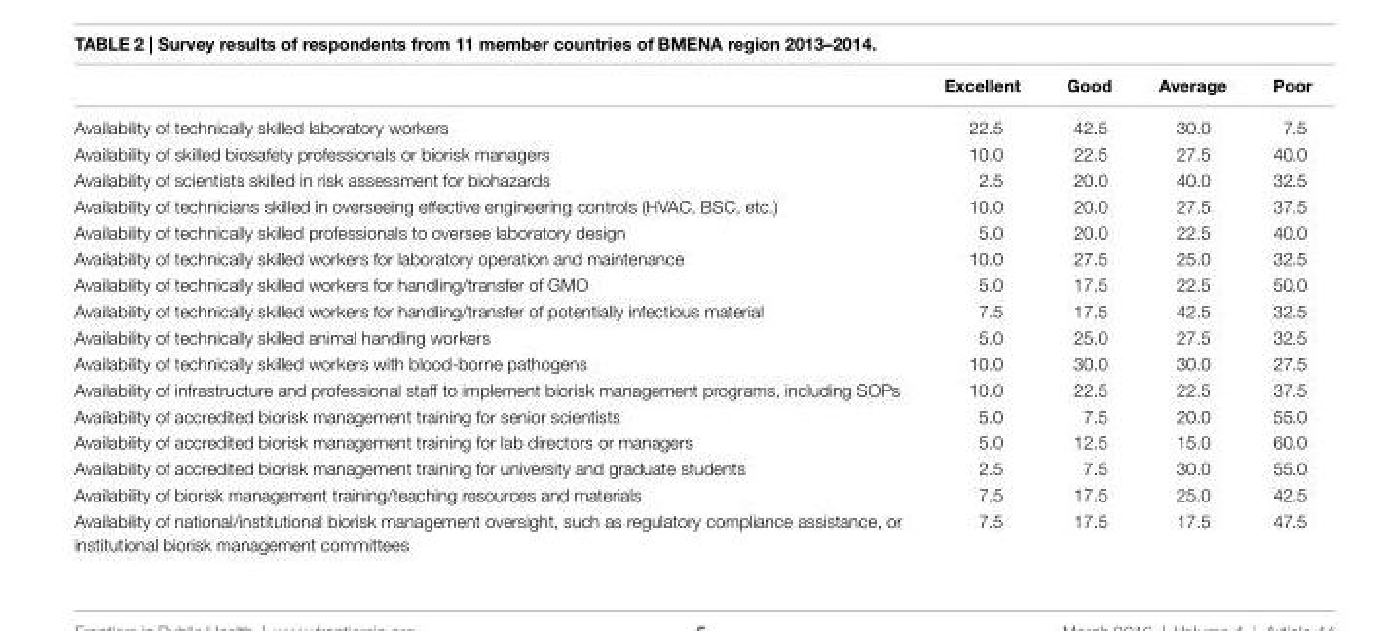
<table><thead><tr><td></td><td>excellent</td><td>good</td><td>average</td><td>Poor</td></tr></thead><tbody><tr><td>Availability of technically skilled laboratory workers</td><td>22.5</td><td>42.5</td><td>30.0</td><td>7.5</td></tr><tr><td>Availability of skilled biosafety professionals or biorisk managers</td><td>10.0</td><td>22.5</td><td>27.5</td><td>40.0</td></tr><tr><td>Availability of scientists skilled in risk assessment for biohazards</td><td>2.5</td><td>20.0</td><td>40.0</td><td>32.5</td></tr><tr><td>Availability of technicians skilled in overseeing effective engineering controls (HVAC, BSC, etc.)</td><td>10.0</td><td>20.0</td><td>27.5</td><td>37.5</td></tr><tr><td>Availability of technically skilled professionals to oversee laboratory design</td><td>5.0</td><td>20.0</td><td>22.5</td><td>40.0</td></tr><tr><td>Availability of technically skilled workers for laboratory operation and maintenance</td><td>10.0</td><td>27.5</td><td>25.0</td><td>32.5</td></tr><tr><td>Availability of technically skilled workers for handling/transfer of GMO</td><td>5.0</td><td>17.5</td><td>22.5</td><td>50.0</td></tr><tr><td>Availability of technically skilled workers for handling/transfer of potentially infectious material</td><td>7.5</td><td>17.5</td><td>42.5</td><td>32.5</td></tr><tr><td>Availability of technically skilled animal handling workers</td><td>5.0</td><td>25.0</td><td>27.5</td><td>32.5</td></tr><tr><td>Availability of technically skilled workers with blood-borne pathogens</td><td>10.0</td><td>30.0</td><td>30.0</td><td>27.5</td></tr><tr><td>Availability of infrastructure and professional staff to implement biorisk management programs, including SOPs</td><td>10.0</td><td>22.5</td><td>22.5</td><td>37.5</td></tr><tr><td>Availability of accredited biorisk management training for senior scientists</td><td>5.0</td><td>7.5</td><td>20.0</td><td>55.0</td></tr><tr><td>Availability of accredited biorisk management training for lab directors or managers</td><td>5.0</td><td>12.5</td><td>15.0</td><td>60.0</td></tr><tr><td>Availability of accredited biorisk management training for university and graduate students</td><td>2.5</td><td>7.5</td><td>30.0</td><td>55.0</td></tr><tr><td>Availability of biorisk management training/teaching resources and materials</td><td>7.5</td><td>17.5</td><td>25.0</td><td>42.5</td></tr><tr><td>Availability of national/institutional biorisk management oversight, such as regulatory compliance assistance, or institutional biorisk management committees</td><td>7.5</td><td>17.5</td><td>17.5</td><td>47.5</td></tr></tbody></table>